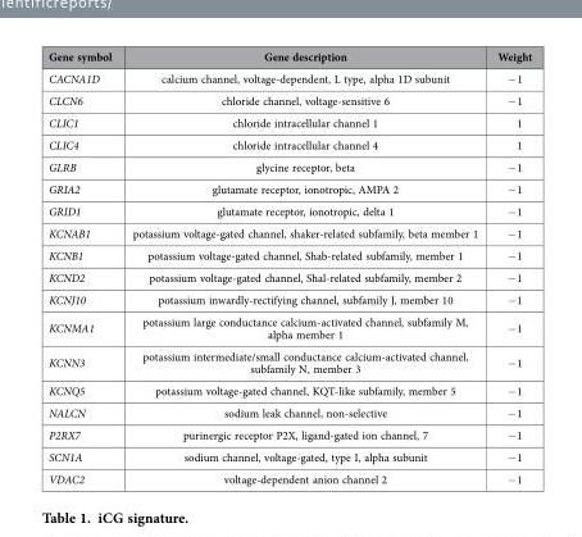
<table><thead><tr><td>Gene symbol</td><td>Gene description</td><td>Weight</td></tr></thead><tbody><tr><td>CACNA1D</td><td>calcium channel, voltage-dependent, L type, alpha 1D subunit</td><td>− 1</td></tr><tr><td>CLCN6</td><td>chloride channel, voltage-sensitive 6</td><td>− 1</td></tr><tr><td>CLIC1</td><td>chloride intracellular channel 1</td><td>1</td></tr><tr><td>CLIC4</td><td>chloride intracellular channel 4</td><td>1</td></tr><tr><td>GLRB</td><td>glycine receptor, beta</td><td>− 1</td></tr><tr><td>GRIA2</td><td>glutamate receptor, ionotropic, AMPA 2</td><td>− 1</td></tr><tr><td>GRID1</td><td>glutamate receptor, ionotropic, delta 1</td><td>− 1</td></tr><tr><td>KCNAB1</td><td>potassium voltage-gated channel, shaker-related subfamily, beta member 1</td><td>− 1</td></tr><tr><td>KCNB1</td><td>potassium voltage-gated channel, Shab-related subfamily, member 1</td><td>− 1</td></tr><tr><td>KCND2</td><td>potassium voltage-gated channel, Shal-related subfamily, member 2</td><td>− 1</td></tr><tr><td>KCNJ10</td><td>potassium inwardly-rectifying channel, subfamily J, member 10</td><td>− 1</td></tr><tr><td>KCNMA1</td><td>potassium large conductance calcium-activated channel, subfamily M, alpha member 1</td><td>− 1</td></tr><tr><td>KCNN3</td><td>potassium intermediate/small conductance calcium-activated channel, subfamily N, member 3</td><td>− 1</td></tr><tr><td>KCNQ5</td><td>potassium voltage-gated channel, KQT-like subfamily, member 5</td><td>− 1</td></tr><tr><td>NALCN</td><td>sodium leak channel, non-selective</td><td>− 1</td></tr><tr><td>P2RX7</td><td>purinergic receptor P2X, ligand-gated ion channel, 7</td><td>− 1</td></tr><tr><td>SCN1A</td><td>sodium channel, voltage-gated, type I, alpha subunit</td><td>− 1</td></tr><tr><td>VDAC2</td><td>voltage-dependent anion channel 2</td><td>− 1</td></tr></tbody></table>